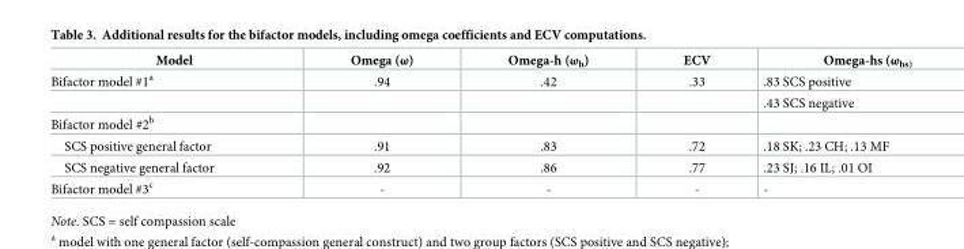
<table><thead><tr><td>Model</td><td>Omega (ω)</td><td>Omega-h (ω<sub>h</sub>)</td><td>ECV</td><td>Omega-hs (ω<sub>hs)</sub></td></tr></thead><tbody><tr><td rowspan="2">Bifactor model #1<sup>a</sup></td><td>.94</td><td>.42</td><td>.33</td><td>.83 SCS positive</td></tr><tr><td></td><td></td><td></td><td>.43 SCS negative</td></tr><tr><td colspan="5">Bifactor model #2<sup>b</sup></td></tr><tr><td>SCS positive general factor</td><td>.91</td><td>.83</td><td>.72</td><td>.18 SK; .23 CH; .13 MF</td></tr><tr><td>SCS negative general factor</td><td>.92</td><td>.86</td><td>.77</td><td>.23 SJ; .16 IL; .01 OI</td></tr><tr><td>Bifactor model #3<sup>c</sup></td><td>-</td><td>-</td><td>-</td><td>-</td></tr></tbody></table>